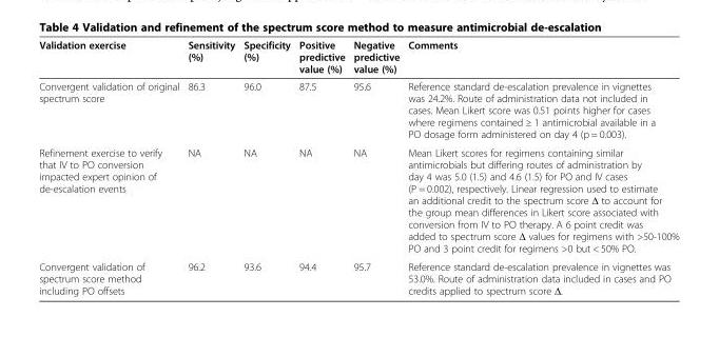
<table><thead><tr><td>Validation exercise</td><td>Sensitivity (%)</td><td>Specificity (%)</td><td>Positive predictive value (%)</td><td>Negative predictive value (%)</td><td>Comments</td></tr></thead><tbody><tr><td>Convergent validation of original spectrum score</td><td>86.3</td><td>96.0</td><td>87.5</td><td>95.6</td><td>Reference standard de-escalation prevalence in vignettes was 24.2%. Route of administration data not included in cases. Mean Likert score was 0.51 points higher for cases where regimens contained ≥ 1 antimicrobial available in a PO dosage form administered on day 4 (p = 0.003).</td></tr><tr><td>Refinement exercise to verify that IV to PO conversion impacted expert opinion of de-escalation events</td><td>NA</td><td>NA</td><td>NA</td><td>NA</td><td>Mean Likert scores for regimens containing similar antimicrobials but differing routes of administration by day 4 was 5.0 (1.5) and 4.6 (1.5) for PO and IV cases (P = 0.002), respectively. Linear regression used to estimate an additional credit to the spectrum score Δ to account for the group mean differences in Likert score associated with conversion from IV to PO therapy. A 6 point credit was added to spectrum score Δ values for regimens with &gt;50-100% PO and 3 point credit for regimens &gt;0 but &lt; 50% PO.</td></tr><tr><td>Convergent validation of spectrum score method including PO offsets</td><td>96.2</td><td>93.6</td><td>94.4</td><td>95.7</td><td>Reference standard de-escalation prevalence in vignettes was 53.0%. Route of administration data included in cases and PO credits applied to spectrum score Δ.</td></tr></tbody></table>